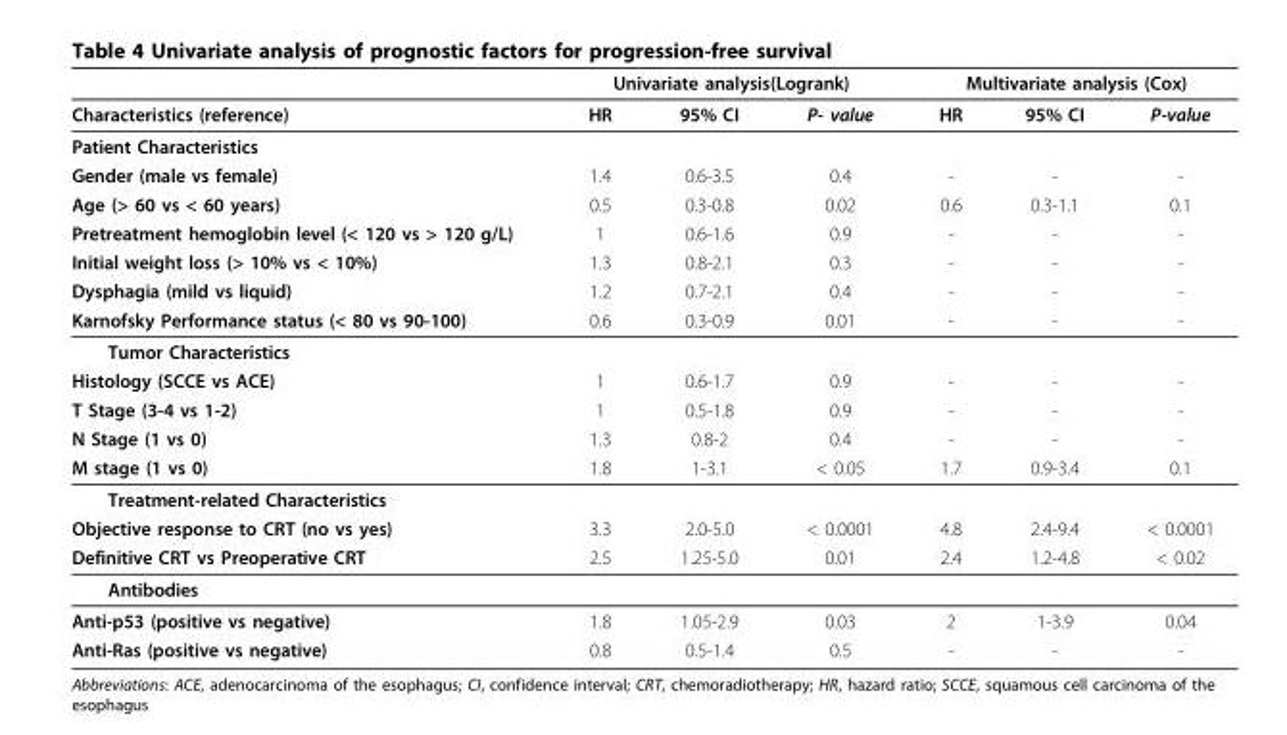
<table><thead><tr><td rowspan="2">Characteristics (reference)</td><td colspan="3">Univariate analysis(Logrank)</td><td colspan="3">Multivariate analysis (Cox)</td></tr><tr><td>HR</td><td>95% CI</td><td>P- value</td><td>HR</td><td>95% CI</td><td>P-value</td></tr></thead><tbody><tr><td colspan="7">Patient Characteristics</td></tr><tr><td>Gender (male vs female)</td><td>1.4</td><td>0.6-3.5</td><td>0.4</td><td>-</td><td>-</td><td>-</td></tr><tr><td>Age (&gt; 60 vs &lt; 60 years)</td><td>0.5</td><td>0.3-0.8</td><td>0.02</td><td>0.6</td><td>0.3-1.1</td><td>0.1</td></tr><tr><td>Pretreatment hemoglobin level (&lt; 120 vs &gt; 120 g/L)</td><td>1</td><td>0.6-1.6</td><td>0.9</td><td>-</td><td>-</td><td>-</td></tr><tr><td>Initial weight loss (&gt; 10% vs &lt; 10%)</td><td>1.3</td><td>0.8-2.1</td><td>0.3</td><td>-</td><td>-</td><td>-</td></tr><tr><td>Dysphagia (mild vs liquid)</td><td>1.2</td><td>0.7-2.1</td><td>0.4</td><td>-</td><td>-</td><td>-</td></tr><tr><td>Karnofsky Performance status (&lt; 80 vs 90-100)</td><td>0.6</td><td>0.3-0.9</td><td>0.01</td><td>-</td><td>-</td><td>-</td></tr><tr><td colspan="7">Tumor Characteristics</td></tr><tr><td>Histology (SCCE vs ACE)</td><td>1</td><td>0.6-1.7</td><td>0.9</td><td>-</td><td>-</td><td>-</td></tr><tr><td>T Stage (3-4 vs 1-2)</td><td>1</td><td>0.5-1.8</td><td>0.9</td><td>-</td><td>-</td><td>-</td></tr><tr><td>N Stage (1 vs 0)</td><td>1.3</td><td>0.8-2</td><td>0.4</td><td>-</td><td>-</td><td>-</td></tr><tr><td>M stage (1 vs 0)</td><td>1.8</td><td>1-3.1</td><td>&lt; 0.05</td><td>1.7</td><td>0.9-3.4</td><td>0.1</td></tr><tr><td colspan="7">Treatment-related Characteristics</td></tr><tr><td>Objective response to CRT (no vs yes)</td><td>3.3</td><td>2.0-5.0</td><td>&lt; 0.0001</td><td>4.8</td><td>2.4-9.4</td><td>&lt; 0.0001</td></tr><tr><td>Definitive CRT vs Preoperative CRT</td><td>2.5</td><td>1.25-5.0</td><td>0.01</td><td>2.4</td><td>1.2-4.8</td><td>&lt; 0.02</td></tr><tr><td colspan="7">Antibodies</td></tr><tr><td>Anti-p53 (positive vs negative)</td><td>1.8</td><td>1.05-2.9</td><td>0.03</td><td>2</td><td>1-3.9</td><td>0.04</td></tr><tr><td>Anti-Ras (positive vs negative)</td><td>0.8</td><td>0.5-1.4</td><td>0.5</td><td>-</td><td>-</td><td>-</td></tr></tbody></table>